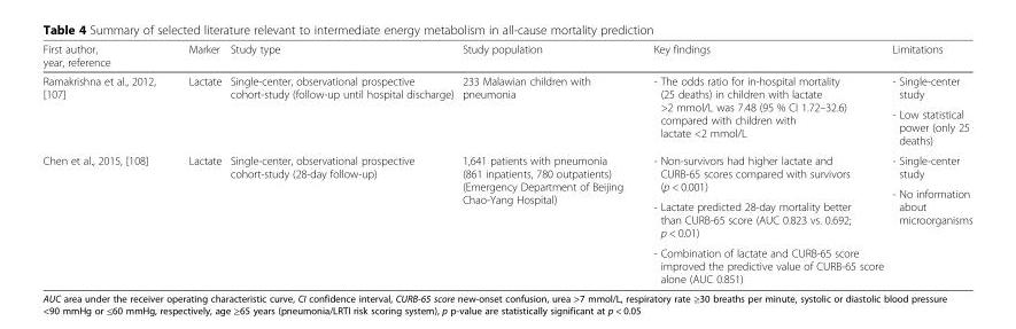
<table><thead><tr><td>First author, year, reference</td><td>Marker</td><td>Study type</td><td>Study population</td><td>Key findings</td><td>Limitations</td></tr></thead><tbody><tr><td rowspan="2">Ramakrishna et al., 2012, [107]</td><td rowspan="2">Lactate</td><td rowspan="2">Single-center, observational prospective cohort-study (follow-up until hospital discharge)</td><td rowspan="2">233 Malawian children with pneumonia</td><td rowspan="2">- The odds ratio for in-hospital mortality (25 deaths) in children with lactate &gt;2 mmol/L was 7.48 (95 % CI 1.72–32.6) compared with children with lactate &lt;2 mmol/L</td><td>- Single-center study</td></tr><tr><td>- Low statistical power (only 25 deaths)</td></tr><tr><td rowspan="4">Chen et al., 2015, [108]</td><td rowspan="4">Lactate</td><td rowspan="4">Single-center, observational prospective cohort-study (28-day follow-up)</td><td rowspan="4">1,641 patients with pneumonia (861 inpatients, 780 outpatients) (Emergency Department of Beijing Chao-Yang Hospital)</td><td rowspan="2">- Non-survivors had higher lactate and CURB-65 scores compared with survivors (p &lt; 0.001)</td><td>- Single-center study</td></tr><tr><td rowspan="3">- No information about microorganisms</td></tr><tr><td>- Lactate predicted 28-day mortality better than CURB-65 score (AUC 0.823 vs. 0.692; p &lt; 0.01)</td></tr><tr><td>- Combination of lactate and CURB-65 score improved the predictive value of CURB-65 score alone (AUC 0.851)</td></tr></tbody></table>